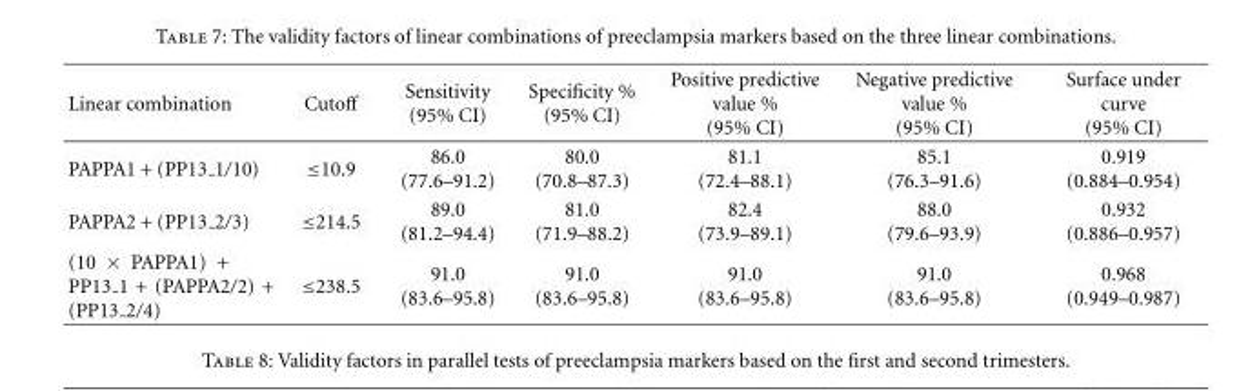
<table><thead><tr><td>Linear combination</td><td>Cutoff</td><td>Sensitivity (95% CI)</td><td>Specificity % (95% CI)</td><td>Positive predictive value % (95% CI)</td><td>Negative predictive value % (95% CI)</td><td>Surface under curve (95% CI)</td></tr></thead><tbody><tr><td>PAPPA1 + (PP13 1/10)</td><td>≤10.9</td><td>86.0 (77.6–91.2)</td><td>80.0 (70.8–87.3)</td><td>81.1 (72.4–88.1)</td><td>85.1 (76.3–91.6)</td><td>0.919 (0.884–0.954)</td></tr><tr><td>PAPPA2 + (PP13 2/3)</td><td>≤214.5</td><td>89.0 (81.2–94.4)</td><td>81.0 (71.9–88.2)</td><td>82.4 (73.9–89.1)</td><td>88.0 (79.6–93.9)</td><td>0.932 (0.886–0.957)</td></tr><tr><td>(10 × PAPPA1) + PP13 <sub>1 + (PAPPA2/2) + (PP13</sub> 2/4)</td><td>≤238.5</td><td>91.0 (83.6–95.8)</td><td>91.0 (83.6–95.8)</td><td>91.0 (83.6–95.8)</td><td>91.0 (83.6–95.8)</td><td>0.968 (0.949–0.987)</td></tr></tbody></table>